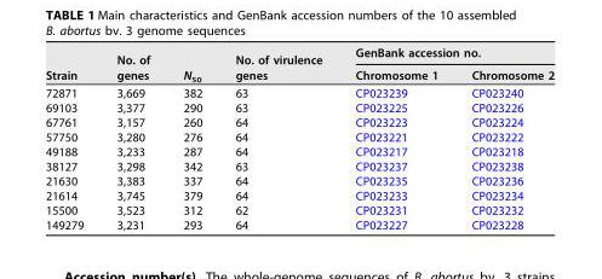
<table><thead><tr><td rowspan="2">Strain</td><td rowspan="2">No. of genes</td><td rowspan="2">N<sub>50</sub></td><td rowspan="2">No. of virulence genes</td><td colspan="2">GenBank accession no.</td></tr><tr><td>Chromosome 1</td><td>Chromosome 2</td></tr></thead><tbody><tr><td>72871</td><td>3,669</td><td>382</td><td>63</td><td>CP023239</td><td>CP023240</td></tr><tr><td>69103</td><td>3,377</td><td>290</td><td>63</td><td>CP023225</td><td>CP023226</td></tr><tr><td>67761</td><td>3,157</td><td>260</td><td>64</td><td>CP023223</td><td>CP023224</td></tr><tr><td>57750</td><td>3,280</td><td>276</td><td>64</td><td>CP023221</td><td>CP023222</td></tr><tr><td>49188</td><td>3,233</td><td>287</td><td>64</td><td>CP023217</td><td>CP023218</td></tr><tr><td>38127</td><td>3,298</td><td>342</td><td>63</td><td>CP023237</td><td>CP023238</td></tr><tr><td>21630</td><td>3,383</td><td>337</td><td>64</td><td>CP023235</td><td>CP023236</td></tr><tr><td>21614</td><td>3,745</td><td>379</td><td>64</td><td>CP023233</td><td>CP023234</td></tr><tr><td>15500</td><td>3,523</td><td>312</td><td>62</td><td>CP023231</td><td>CP023232</td></tr><tr><td>149279</td><td>3,231</td><td>293</td><td>64</td><td>CP023227</td><td>CP023228</td></tr></tbody></table>